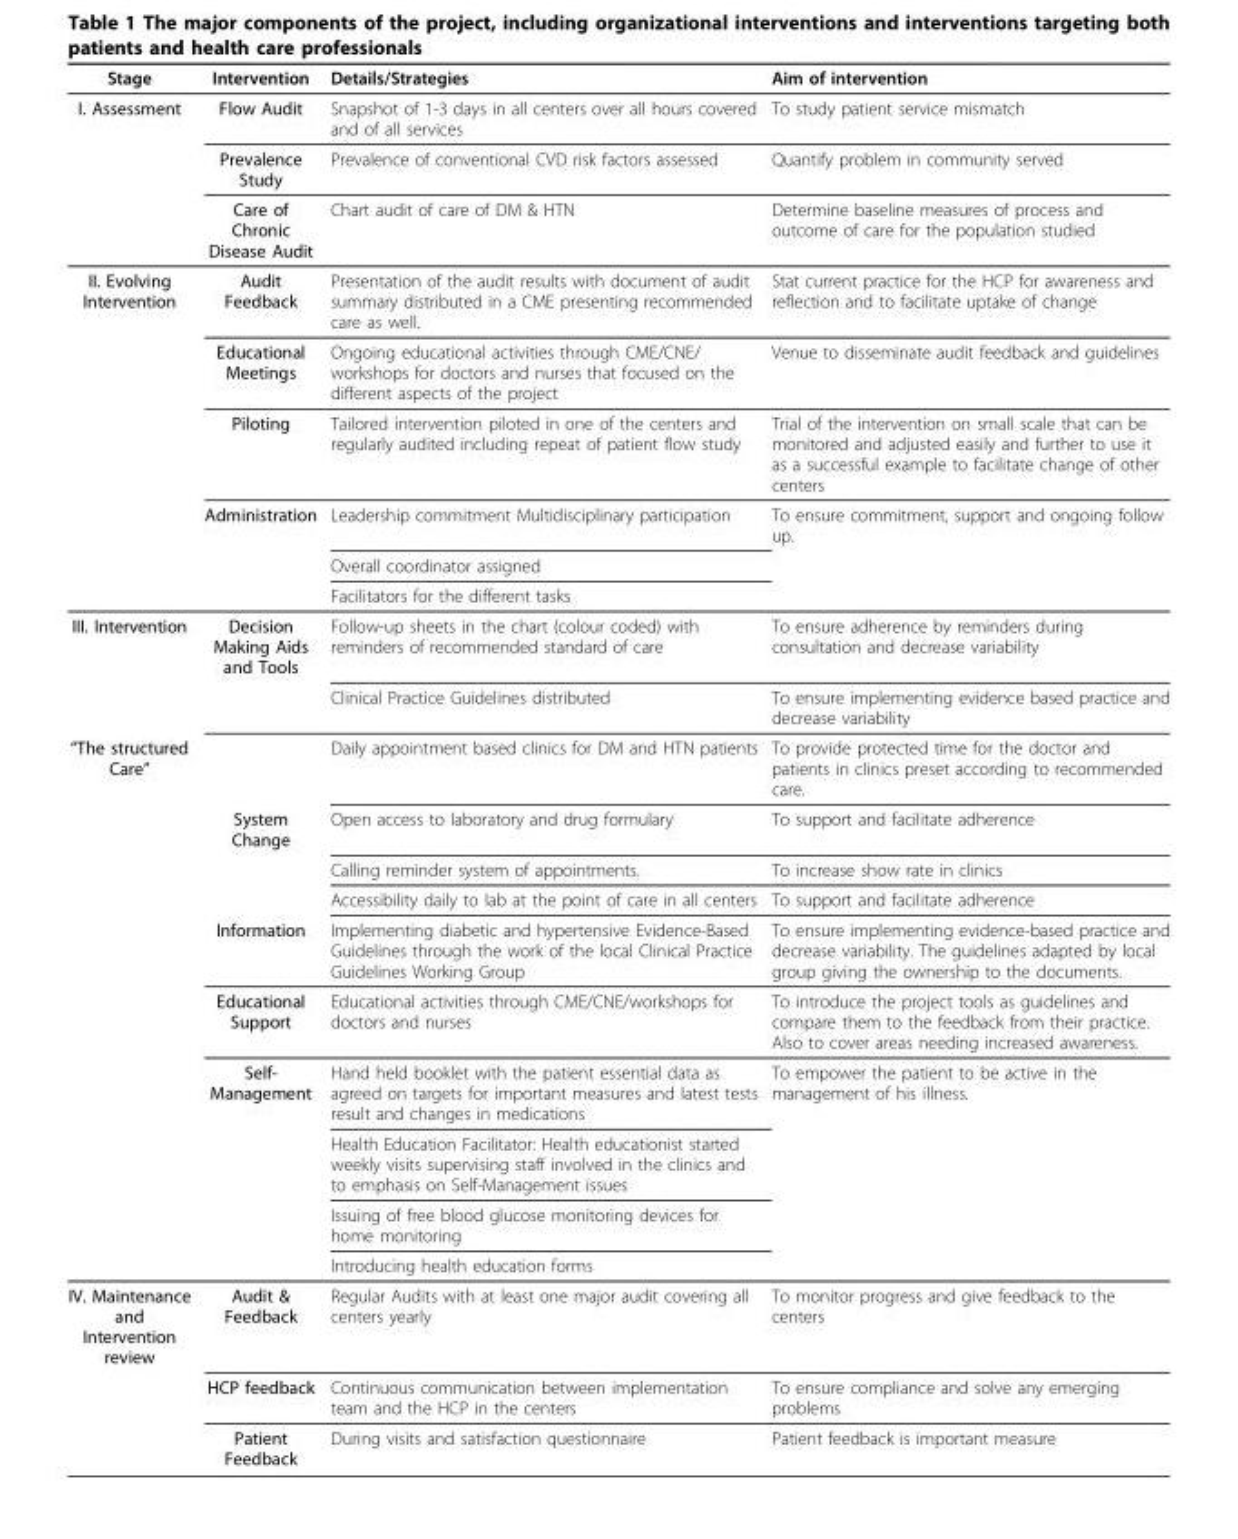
<table><thead><tr><td>Stage</td><td>Intervention</td><td>Details/Strategies</td><td>Aim of intervention</td></tr></thead><tbody><tr><td rowspan="3">I. Assessment</td><td>Flow Audit</td><td>Snapshot of 1-3 days in all centers over all hours covered and of all services</td><td>To study patient service mismatch</td></tr><tr><td>Prevalence Study</td><td>Prevalence of conventional CVD risk factors assessed</td><td>Quantify problem in community served</td></tr><tr><td>Care of Chronic Disease Audit</td><td>Chart audit of care of DM &amp; HTN</td><td>Determine baseline measures of process and outcome of care for the population studied</td></tr><tr><td rowspan="6">II. Evolving Intervention</td><td>Audit Feedback</td><td>Presentation of the audit results with document of audit summary distributed in a CME presenting recommended care as well.</td><td>Stat current practice for the HCP for awareness and reflection and to facilitate uptake of change</td></tr><tr><td>Educational Meetings</td><td>Ongoing educational activities through CME/CNE/ workshops for doctors and nurses that focused on the different aspects of the project</td><td>Venue to disseminate audit feedback and guidelines</td></tr><tr><td>Piloting</td><td>Tailored intervention piloted in one of the centers and regularly audited including repeat of patient flow study</td><td>Trial of the intervention on small scale that can be monitored and adjusted easily and further to use it as a successful example to facilitate change of other centers</td></tr><tr><td>Administration</td><td>Leadership commitment Multidisciplinary participation</td><td>To ensure commitment, support and ongoing follow up.</td></tr><tr><td></td><td>Overall coordinator assigned</td><td></td></tr><tr><td></td><td>Facilitators for the different tasks</td><td></td></tr><tr><td rowspan="2">III. Intervention</td><td>Decision Making Aids and Tools</td><td>Follow-up sheets in the chart (colour coded) with reminders of recommended standard of care</td><td>To ensure adherence by reminders during consultation and decrease variability</td></tr><tr><td></td><td>Clinical Practice Guidelines distributed</td><td>To ensure implementing evidence based practice and decrease variability</td></tr><tr><td rowspan="10">“The structured Care”</td><td></td><td>Daily appointment based clinics for DM and HTN patients</td><td>To provide protected time for the doctor and patients in clinics preset according to recommended care.</td></tr><tr><td>System Change</td><td>Open access to laboratory and drug formulary</td><td>To support and facilitate adherence</td></tr><tr><td></td><td>Calling reminder system of appointments.</td><td>To increase show rate in clinics</td></tr><tr><td></td><td>Accessibility daily to lab at the point of care in all centers</td><td>To support and facilitate adherence</td></tr><tr><td>Information</td><td>Implementing diabetic and hypertensive Evidence-Based Guidelines through the work of the local Clinical Practice Guidelines Working Group</td><td>To ensure implementing evidence-based practice and decrease variability. The guidelines adapted by local group giving the ownership to the documents.</td></tr><tr><td>Educational Support</td><td>Educational activities through CME/CNE/workshops for doctors and nurses</td><td>To introduce the project tools as guidelines and compare them to the feedback from their practice. Also to cover areas needing increased awareness.</td></tr><tr><td>Self- Management</td><td>Hand held booklet with the patient essential data as agreed on targets for important measures and latest tests result and changes in medications</td><td>To empower the patient to be active in the management of his illness.</td></tr><tr><td></td><td>Health Education Facilitator: Health educationist started weekly visits supervising staff involved in the clinics and to emphasis on Self-Management issues</td><td></td></tr><tr><td></td><td>Issuing of free blood glucose monitoring devices for home monitoring</td><td></td></tr><tr><td></td><td>Introducing health education forms</td><td></td></tr><tr><td rowspan="3">IV. Maintenance and Intervention review</td><td>Audit &amp; Feedback</td><td>Regular Audits with at least one major audit covering all centers yearly</td><td>To monitor progress and give feedback to the centers</td></tr><tr><td>HCP feedback</td><td>Continuous communication between implementation team and the HCP in the centers</td><td>To ensure compliance and solve any emerging problems</td></tr><tr><td>Patient Feedback</td><td>During visits and satisfaction questionnaire</td><td>Patient feedback is important measure</td></tr></tbody></table>